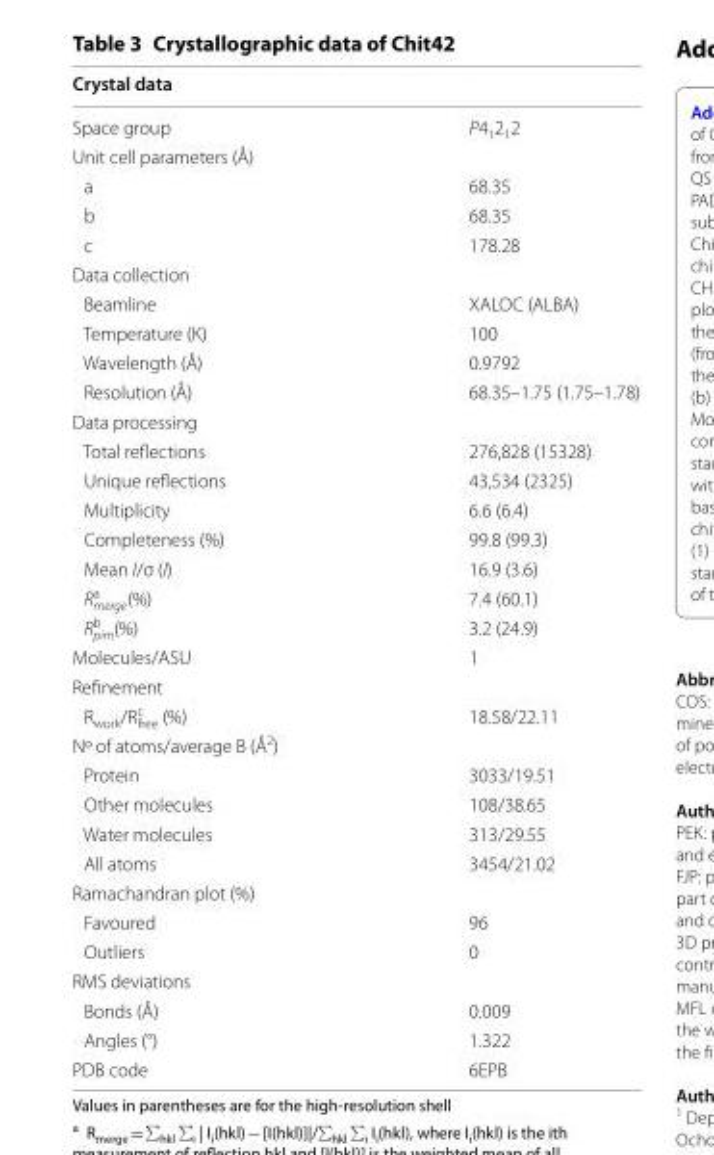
<table><thead><tr><td>Crystal data</td><td></td></tr></thead><tbody><tr><td>Space group</td><td>P4<sub>1</sub>2<sub>1</sub>2</td></tr><tr><td colspan="2">Unit cell parameters (Å)</td></tr><tr><td>a</td><td>68.35</td></tr><tr><td>b</td><td>68.35</td></tr><tr><td>c</td><td>178.28</td></tr><tr><td colspan="2">Data collection</td></tr><tr><td>Beamline</td><td>XALOC (ALBA)</td></tr><tr><td>Temperature (K)</td><td>100</td></tr><tr><td>Wavelength (Å)</td><td>0.9792</td></tr><tr><td>Resolution (Å)</td><td>68.35–1.75 (1.75–1.78)</td></tr><tr><td colspan="2">Data processing</td></tr><tr><td>Total reflections</td><td>276,828 (15328)</td></tr><tr><td>Unique reflections</td><td>43,534 (2325)</td></tr><tr><td>Multiplicity</td><td>6.6 (6.4)</td></tr><tr><td>Completeness (%)</td><td>99.8 (99.3)</td></tr><tr><td>Mean I/σ (I)</td><td>16.9 (3.6)</td></tr><tr><td>R<sub>merge</sub> <sup>a</sup> (%)</td><td>7.4 (60.1)</td></tr><tr><td>R<sub>pim</sub> <sup>b</sup> (%)</td><td>3.2 (24.9)</td></tr><tr><td>Molecules/ASU</td><td>1</td></tr><tr><td colspan="2">Refinement</td></tr><tr><td>Rwork/Rc free (%)</td><td>18.58/22.11</td></tr><tr><td colspan="2">Nº of atoms/average B (Å<sup>2</sup>)</td></tr><tr><td>Protein</td><td>3033/19.51</td></tr><tr><td>Other molecules</td><td>108/38.65</td></tr><tr><td>Water molecules</td><td>313/29.55</td></tr><tr><td>All atoms</td><td>3454/21.02</td></tr><tr><td colspan="2">Ramachandran plot (%)</td></tr><tr><td>Favoured</td><td>96</td></tr><tr><td>Outliers</td><td>0</td></tr><tr><td colspan="2">RMS deviations</td></tr><tr><td>Bonds (Å)</td><td>0.009</td></tr><tr><td>Angles (°)</td><td>1.322</td></tr><tr><td>PDB code</td><td>6EPB</td></tr></tbody></table>